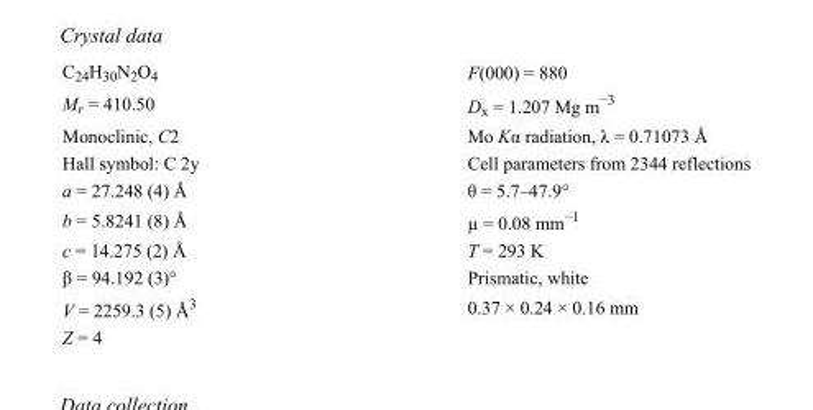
<table><tbody><tr><td>C<sub>24</sub>H<sub>30</sub>N<sub>2</sub>O<sub>4</sub></td><td>F(000) = 880</td></tr><tr><td>M<sub>r</sub> = 410.50</td><td>D<sub>x</sub> = 1.207 Mg m<sup>−3</sup></td></tr><tr><td>Monoclinic, C2</td><td>Mo Kα radiation, λ = 0.71073 Å</td></tr><tr><td>Hall symbol: C 2y</td><td>Cell parameters from 2344 reflections</td></tr><tr><td>a = 27.248 (4) Å</td><td>θ = 5.7–47.9°</td></tr><tr><td>b = 5.8241 (8) Å</td><td>µ = 0.08 mm<sup>−1</sup></td></tr><tr><td>c = 14.275 (2) Å</td><td>T = 293 K</td></tr><tr><td>β = 94.192 (3)°</td><td>Prismatic, white</td></tr><tr><td>V = 2259.3 (5) Å<sup>3</sup></td><td>0.37 × 0.24 × 0.16 mm</td></tr><tr><td>Z = 4</td><td></td></tr></tbody></table>